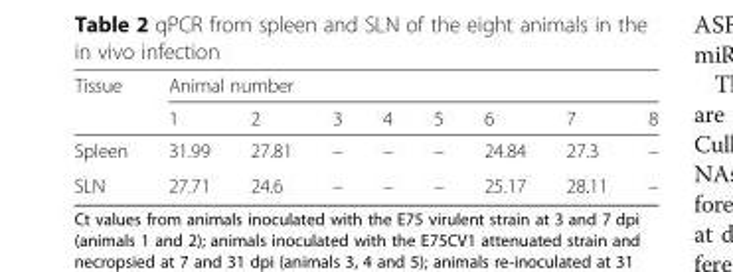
<table><thead><tr><td rowspan="2">Tissue</td><td colspan="8">Animal number</td></tr><tr><td>1</td><td>2</td><td>3</td><td>4</td><td>5</td><td>6</td><td>7</td><td>8</td></tr></thead><tbody><tr><td>Spleen</td><td>31.99</td><td>27.81</td><td>–</td><td>–</td><td>–</td><td>24.84</td><td>27.3</td><td>–</td></tr><tr><td>SLN</td><td>27.71</td><td>24.6</td><td>–</td><td>–</td><td>–</td><td>25.17</td><td>28.11</td><td>–</td></tr></tbody></table>